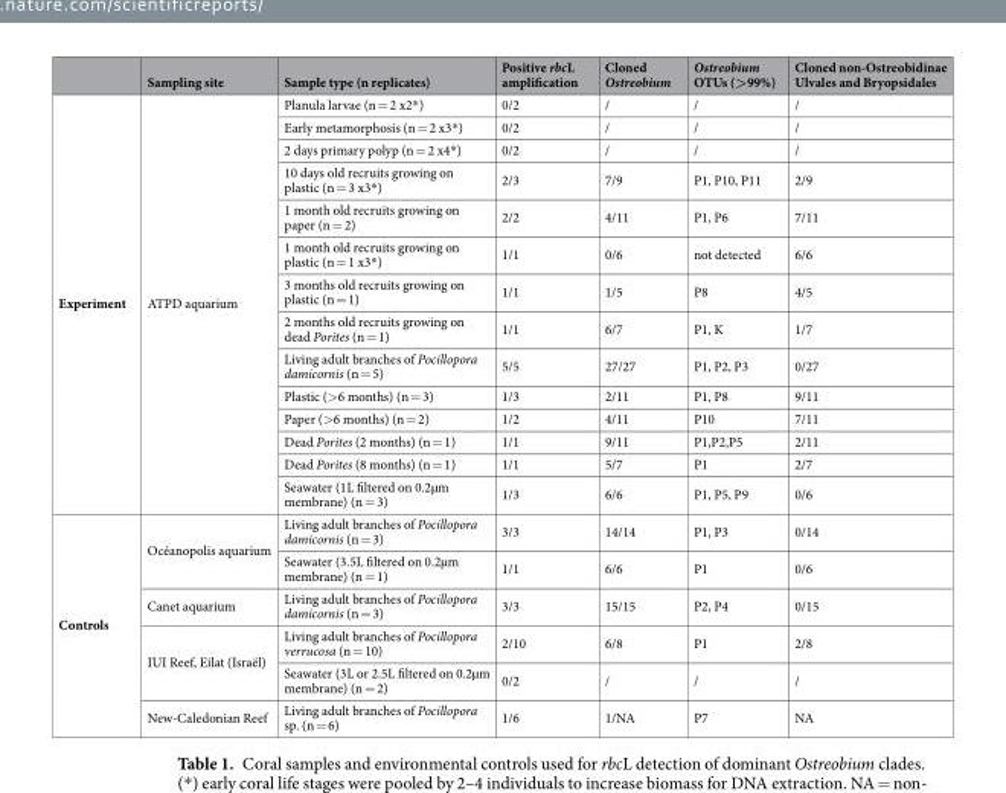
<table><thead><tr><td></td><td>Sampling site</td><td>Sample type (n replicates)</td><td>Positive rbcL amplification</td><td>Cloned Ostreobium</td><td>Ostreobium OTUs (&gt;99%)</td><td>Cloned non-Ostreobidinae Ulvales and Bryopsidales</td></tr></thead><tbody><tr><td rowspan="14">Experiment</td><td rowspan="14">ATPD aquarium</td><td>Planula larvae (n = 2 x2*)</td><td>0/2</td><td>/</td><td>/</td><td>/</td></tr><tr><td>Early metamorphosis (n = 2 x3*)</td><td>0/2</td><td>/</td><td>/</td><td>/</td></tr><tr><td>2 days primary polyp (n = 2 x4*)</td><td>0/2</td><td>/</td><td>/</td><td>/</td></tr><tr><td>10 days old recruits growing on plastic (n = 3 x3*)</td><td>2/3</td><td>7/9</td><td>P1, P10, P11</td><td>2/9</td></tr><tr><td>1 month old recruits growing on paper (n = 2)</td><td>2/2</td><td>4/11</td><td>P1, P6</td><td>7/11</td></tr><tr><td>1 month old recruits growing on plastic (n = 1 x3*)</td><td>1/1</td><td>0/6</td><td>not detected</td><td>6/6</td></tr><tr><td>3 months old recruits growing on plastic (n = 1)</td><td>1/1</td><td>1/5</td><td>P8</td><td>4/5</td></tr><tr><td>2 months old recruits growing on dead Porites (n = 1)</td><td>1/1</td><td>6/7</td><td>P1, K</td><td>1/7</td></tr><tr><td>Living adult branches of Pocillopora damicornis (n = 5)</td><td>5/5</td><td>27/27</td><td>P1, P2, P3</td><td>0/27</td></tr><tr><td>Plastic (&gt;6 months) (n = 3)</td><td>1/3</td><td>2/11</td><td>P1, P8</td><td>9/11</td></tr><tr><td>Paper (&gt;6 months) (n = 2)</td><td>1/2</td><td>4/11</td><td>P10</td><td>7/11</td></tr><tr><td>Dead Porites (2 months) (n = 1)</td><td>1/1</td><td>9/11</td><td>P1,P2,P5</td><td>2/11</td></tr><tr><td>Dead Porites (8 months) (n = 1)</td><td>1/1</td><td>5/7</td><td>P1</td><td>2/7</td></tr><tr><td>Seawater (1L filtered on 0.2µm membrane) (n = 3)</td><td>1/3</td><td>6/6</td><td>P1, P5, P9</td><td>0/6</td></tr><tr><td rowspan="6">Controls</td><td rowspan="2">Océanopolis aquarium</td><td>Living adult branches of Pocillopora damicornis (n = 3)</td><td>3/3</td><td>14/14</td><td>P1, P3</td><td>0/14</td></tr><tr><td>Seawater (3.5L filtered on 0.2µm membrane) (n = 1)</td><td>1/1</td><td>6/6</td><td>P1</td><td>0/6</td></tr><tr><td>Canet aquarium</td><td>Living adult branches of Pocillopora damicornis (n = 3)</td><td>3/3</td><td>15/15</td><td>P2, P4</td><td>0/15</td></tr><tr><td rowspan="2">IUI Reef, Eilat (Israël)</td><td>Living adult branches of Pocillopora verrucosa (n = 10)</td><td>2/10</td><td>6/8</td><td>P1</td><td>2/8</td></tr><tr><td>Seawater (3L or 2.5L filtered on 0.2µm membrane) (n = 2)</td><td>0/2</td><td>/</td><td>/</td><td>/</td></tr><tr><td>New-Caledonian Reef</td><td>Living adult branches of Pocillopora sp. (n = 6)</td><td>1/6</td><td>1/NA</td><td>P7</td><td>NA</td></tr></tbody></table>